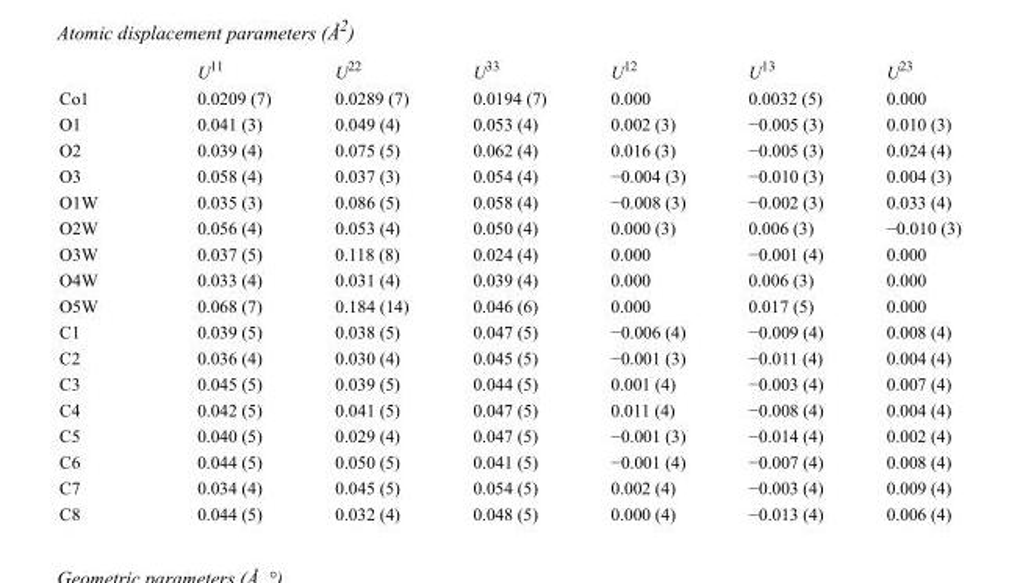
<table><thead><tr><td></td><td>U<sup>11</sup></td><td>U<sup>22</sup></td><td>U<sup>33</sup></td><td>U<sup>12</sup></td><td>U<sup>13</sup></td><td>U<sup>23</sup></td></tr></thead><tbody><tr><td>Co1</td><td>0.0209 (7)</td><td>0.0289 (7)</td><td>0.0194 (7)</td><td>0.000</td><td>0.0032 (5)</td><td>0.000</td></tr><tr><td>O1</td><td>0.041 (3)</td><td>0.049 (4)</td><td>0.053 (4)</td><td>0.002 (3)</td><td>−0.005 (3)</td><td>0.010 (3)</td></tr><tr><td>O2</td><td>0.039 (4)</td><td>0.075 (5)</td><td>0.062 (4)</td><td>0.016 (3)</td><td>−0.005 (3)</td><td>0.024 (4)</td></tr><tr><td>O3</td><td>0.058 (4)</td><td>0.037 (3)</td><td>0.054 (4)</td><td>−0.004 (3)</td><td>−0.010 (3)</td><td>0.004 (3)</td></tr><tr><td>O1W</td><td>0.035 (3)</td><td>0.086 (5)</td><td>0.058 (4)</td><td>−0.008 (3)</td><td>−0.002 (3)</td><td>0.033 (4)</td></tr><tr><td>O2W</td><td>0.056 (4)</td><td>0.053 (4)</td><td>0.050 (4)</td><td>0.000 (3)</td><td>0.006 (3)</td><td>−0.010 (3)</td></tr><tr><td>O3W</td><td>0.037 (5)</td><td>0.118 (8)</td><td>0.024 (4)</td><td>0.000</td><td>−0.001 (4)</td><td>0.000</td></tr><tr><td>O4W</td><td>0.033 (4)</td><td>0.031 (4)</td><td>0.039 (4)</td><td>0.000</td><td>0.006 (3)</td><td>0.000</td></tr><tr><td>O5W</td><td>0.068 (7)</td><td>0.184 (14)</td><td>0.046 (6)</td><td>0.000</td><td>0.017 (5)</td><td>0.000</td></tr><tr><td>C1</td><td>0.039 (5)</td><td>0.038 (5)</td><td>0.047 (5)</td><td>−0.006 (4)</td><td>−0.009 (4)</td><td>0.008 (4)</td></tr><tr><td>C2</td><td>0.036 (4)</td><td>0.030 (4)</td><td>0.045 (5)</td><td>−0.001 (3)</td><td>−0.011 (4)</td><td>0.004 (4)</td></tr><tr><td>C3</td><td>0.045 (5)</td><td>0.039 (5)</td><td>0.044 (5)</td><td>0.001 (4)</td><td>−0.003 (4)</td><td>0.007 (4)</td></tr><tr><td>C4</td><td>0.042 (5)</td><td>0.041 (5)</td><td>0.047 (5)</td><td>0.011 (4)</td><td>−0.008 (4)</td><td>0.004 (4)</td></tr><tr><td>C5</td><td>0.040 (5)</td><td>0.029 (4)</td><td>0.047 (5)</td><td>−0.001 (3)</td><td>−0.014 (4)</td><td>0.002 (4)</td></tr><tr><td>C6</td><td>0.044 (5)</td><td>0.050 (5)</td><td>0.041 (5)</td><td>−0.001 (4)</td><td>−0.007 (4)</td><td>0.008 (4)</td></tr><tr><td>C7</td><td>0.034 (4)</td><td>0.045 (5)</td><td>0.054 (5)</td><td>0.002 (4)</td><td>−0.003 (4)</td><td>0.009 (4)</td></tr><tr><td>C8</td><td>0.044 (5)</td><td>0.032 (4)</td><td>0.048 (5)</td><td>0.000 (4)</td><td>−0.013 (4)</td><td>0.006 (4)</td></tr></tbody></table>